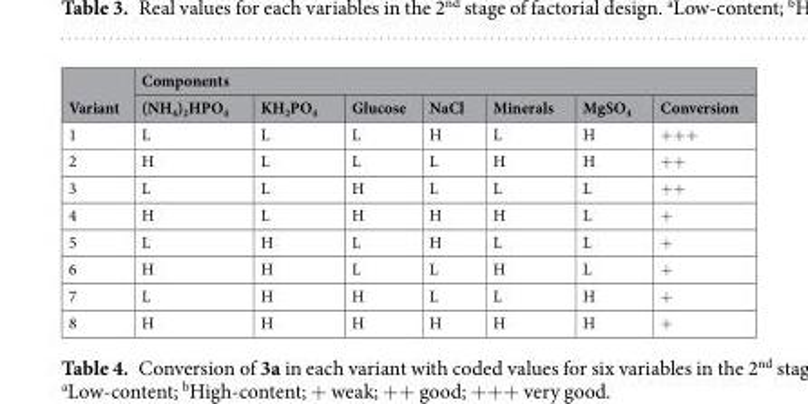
<table><thead><tr><td rowspan="2">Variant</td><td colspan="7">Components</td></tr><tr><td>(NH<sub>4</sub>)<sub>2</sub>HPO<sub>4</sub></td><td>KH<sub>2</sub>PO<sub>4</sub></td><td>Glucose</td><td>NaCl</td><td>Minerals</td><td>MgSO<sub>4</sub></td><td>Conversion</td></tr></thead><tbody><tr><td>1</td><td>L</td><td>L</td><td>L</td><td>H</td><td>L</td><td>H</td><td>+++</td></tr><tr><td>2</td><td>H</td><td>L</td><td>L</td><td>L</td><td>H</td><td>H</td><td>++</td></tr><tr><td>3</td><td>L</td><td>L</td><td>H</td><td>L</td><td>L</td><td>L</td><td>++</td></tr><tr><td>4</td><td>H</td><td>L</td><td>H</td><td>H</td><td>H</td><td>L</td><td>+</td></tr><tr><td>5</td><td>L</td><td>H</td><td>L</td><td>H</td><td>L</td><td>L</td><td>+</td></tr><tr><td>6</td><td>H</td><td>H</td><td>L</td><td>L</td><td>H</td><td>L</td><td>+</td></tr><tr><td>7</td><td>L</td><td>H</td><td>H</td><td>L</td><td>L</td><td>H</td><td>+</td></tr><tr><td>8</td><td>H</td><td>H</td><td>H</td><td>H</td><td>H</td><td>H</td><td>+</td></tr></tbody></table>